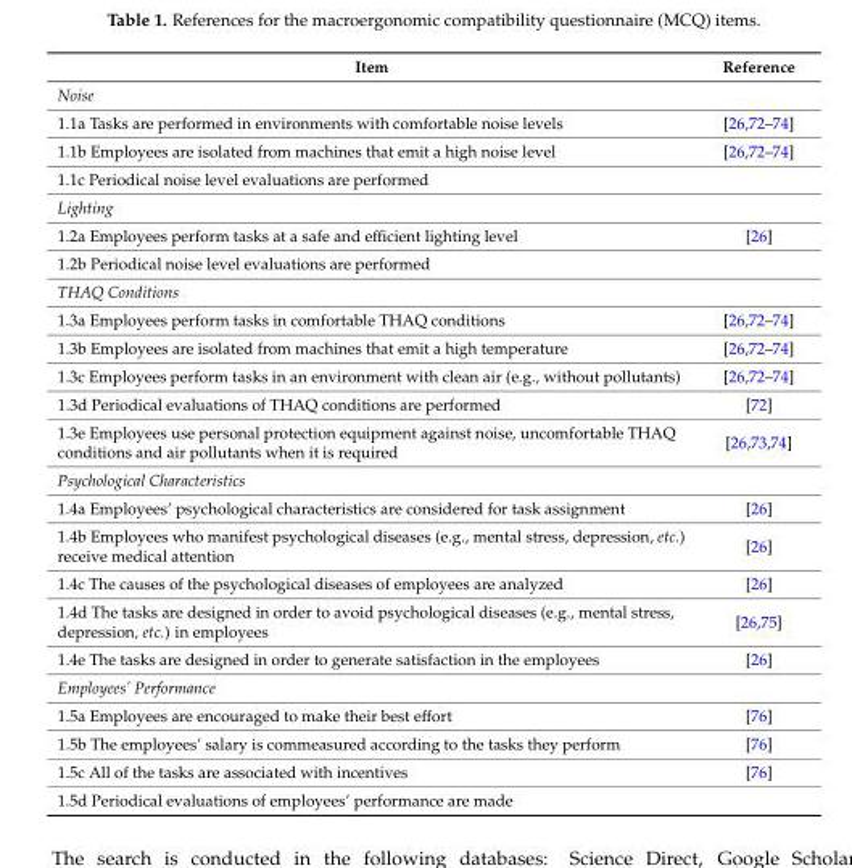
<table><thead><tr><td>Item</td><td>Reference</td></tr></thead><tbody><tr><td colspan="2">Noise</td></tr><tr><td>1.1a Tasks are performed in environments with comfortable noise levels</td><td>[26,72–74]</td></tr><tr><td>1.1b Employees are isolated from machines that emit a high noise level</td><td>[26,72–74]</td></tr><tr><td colspan="2">1.1c Periodical noise level evaluations are performed</td></tr><tr><td colspan="2">Lighting</td></tr><tr><td>1.2a Employees perform tasks at a safe and efficient lighting level</td><td>[26]</td></tr><tr><td colspan="2">1.2b Periodical noise level evaluations are performed</td></tr><tr><td colspan="2">THAQ Conditions</td></tr><tr><td>1.3a Employees perform tasks in comfortable THAQ conditions</td><td>[26,72–74]</td></tr><tr><td>1.3b Employees are isolated from machines that emit a high temperature</td><td>[26,72–74]</td></tr><tr><td>1.3c Employees perform tasks in an environment with clean air (e.g., without pollutants)</td><td>[26,72–74]</td></tr><tr><td>1.3d Periodical evaluations of THAQ conditions are performed</td><td>[72]</td></tr><tr><td>1.3e Employees use personal protection equipment against noise, uncomfortable THAQ conditions and air pollutants when it is required</td><td>[26,73,74]</td></tr><tr><td colspan="2">Psychological Characteristics</td></tr><tr><td>1.4a Employees’ psychological characteristics are considered for task assignment</td><td>[26]</td></tr><tr><td>1.4b Employees who manifest psychological diseases (e.g., mental stress, depression, etc.) receive medical attention</td><td>[26]</td></tr><tr><td>1.4c The causes of the psychological diseases of employees are analyzed</td><td>[26]</td></tr><tr><td>1.4d The tasks are designed in order to avoid psychological diseases (e.g., mental stress, depression, etc.) in employees</td><td>[26,75]</td></tr><tr><td>1.4e The tasks are designed in order to generate satisfaction in the employees</td><td>[26]</td></tr><tr><td colspan="2">Employees’ Performance</td></tr><tr><td>1.5a Employees are encouraged to make their best effort</td><td>[76]</td></tr><tr><td>1.5b The employees’ salary is commeasured according to the tasks they perform</td><td>[76]</td></tr><tr><td>1.5c All of the tasks are associated with incentives</td><td>[76]</td></tr><tr><td>1.5d Periodical evaluations of employees’ performance are made</td><td></td></tr></tbody></table>